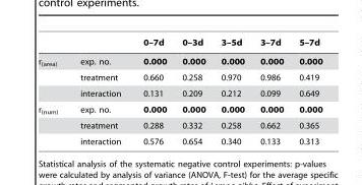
<table><thead><tr><td></td><td></td><td>0–7d</td><td>0–3d</td><td>3–5d</td><td>3–7d</td><td>5–7d</td></tr></thead><tbody><tr><td rowspan="3">r<sub>(area)</sub></td><td>exp. no.</td><td>0.000</td><td>0.000</td><td>0.000</td><td>0.000</td><td>0.000</td></tr><tr><td>treatment</td><td>0.660</td><td>0.258</td><td>0.970</td><td>0.986</td><td>0.419</td></tr><tr><td>interaction</td><td>0.131</td><td>0.209</td><td>0.212</td><td>0.099</td><td>0.649</td></tr><tr><td rowspan="3">r<sub>(num)</sub></td><td>exp. no.</td><td>0.000</td><td>0.000</td><td>0.000</td><td>0.000</td><td>0.000</td></tr><tr><td>treatment</td><td>0.288</td><td>0.332</td><td>0.258</td><td>0.662</td><td>0.365</td></tr><tr><td>interaction</td><td>0.576</td><td>0.654</td><td>0.340</td><td>0.133</td><td>0.313</td></tr></tbody></table>